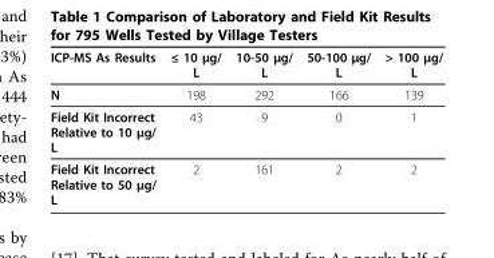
<table><thead><tr><td>ICP-MS As Results</td><td>≤ 10 μg/ L</td><td>10-50 μg/ L</td><td>50-100 μg/ L</td><td>&gt; 100 μg/ L</td></tr></thead><tbody><tr><td>N</td><td>198</td><td>292</td><td>166</td><td>139</td></tr><tr><td>Field Kit Incorrect Relative to 10 μg/ L</td><td>43</td><td>9</td><td>0</td><td>1</td></tr><tr><td>Field Kit Incorrect Relative to 50 μg/ L</td><td>2</td><td>161</td><td>2</td><td>2</td></tr></tbody></table>